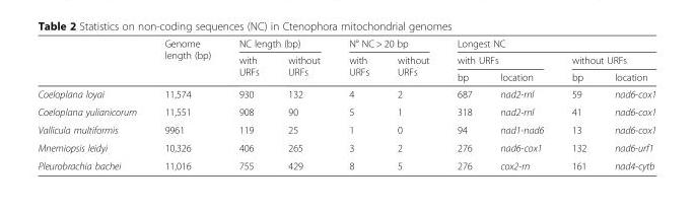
<table><thead><tr><td rowspan="3"></td><td rowspan="3">Genome length (bp)</td><td colspan="2">NC length (bp)</td><td colspan="2">N° NC &gt; 20 bp</td><td colspan="4">Longest NC</td></tr><tr><td rowspan="2">with URFs</td><td rowspan="2">without URFs</td><td rowspan="2">with URFs</td><td rowspan="2">without URFs</td><td colspan="2">with URFs</td><td colspan="2">without URFs</td></tr><tr><td>bp</td><td>location</td><td>bp</td><td>location</td></tr></thead><tbody><tr><td>Coeloplana loyai</td><td>11,574</td><td>930</td><td>132</td><td>4</td><td>2</td><td>687</td><td>nad2-rnl</td><td>59</td><td>nad6-cox1</td></tr><tr><td>Coeloplana yulianicorum</td><td>11,551</td><td>908</td><td>90</td><td>5</td><td>1</td><td>318</td><td>nad2-rnl</td><td>41</td><td>nad6-cox1</td></tr><tr><td>Vallicula multiformis</td><td>9961</td><td>119</td><td>25</td><td>1</td><td>0</td><td>94</td><td>nad1-nad6</td><td>13</td><td>nad6-cox1</td></tr><tr><td>Mnemiopsis leidyi</td><td>10,326</td><td>406</td><td>265</td><td>3</td><td>2</td><td>276</td><td>nad6-cox1</td><td>132</td><td>nad6-urf1</td></tr><tr><td>Pleurobrachia bachei</td><td>11,016</td><td>755</td><td>429</td><td>8</td><td>5</td><td>276</td><td>cox2-rn</td><td>161</td><td>nad4-cytb</td></tr></tbody></table>